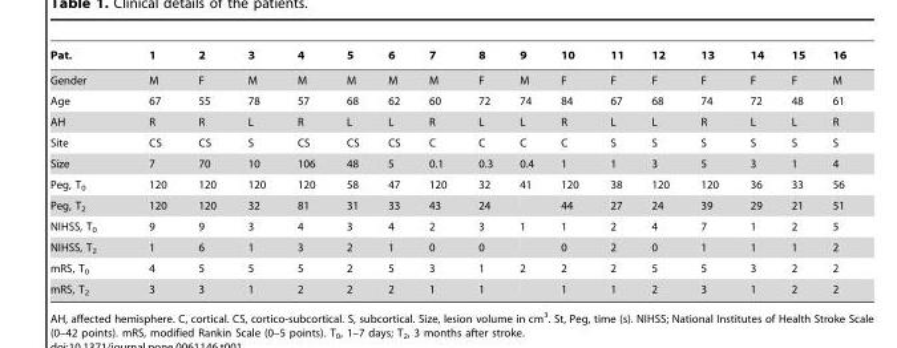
<table><thead><tr><td>Pat.</td><td>1</td><td>2</td><td>3</td><td>4</td><td>5</td><td>6</td><td>7</td><td>8</td><td>9</td><td>10</td><td>11</td><td>12</td><td>13</td><td>14</td><td>15</td><td>16</td></tr></thead><tbody><tr><td>Gender</td><td>M</td><td>F</td><td>M</td><td>M</td><td>M</td><td>M</td><td>M</td><td>F</td><td>M</td><td>F</td><td>F</td><td>F</td><td>F</td><td>F</td><td>F</td><td>M</td></tr><tr><td>Age</td><td>67</td><td>55</td><td>78</td><td>57</td><td>68</td><td>62</td><td>60</td><td>72</td><td>74</td><td>84</td><td>67</td><td>68</td><td>74</td><td>72</td><td>48</td><td>61</td></tr><tr><td>AH</td><td>R</td><td>R</td><td>L</td><td>R</td><td>L</td><td>L</td><td>R</td><td>L</td><td>L</td><td>R</td><td>L</td><td>L</td><td>R</td><td>L</td><td>L</td><td>R</td></tr><tr><td>Site</td><td>CS</td><td>CS</td><td>S</td><td>CS</td><td>CS</td><td>CS</td><td>C</td><td>C</td><td>C</td><td>C</td><td>S</td><td>S</td><td>S</td><td>S</td><td>S</td><td>S</td></tr><tr><td>Size</td><td>7</td><td>70</td><td>10</td><td>106</td><td>48</td><td>5</td><td>0.1</td><td>0.3</td><td>0.4</td><td>1</td><td>1</td><td>3</td><td>5</td><td>3</td><td>1</td><td>4</td></tr><tr><td>Peg, T<sub>0</sub></td><td>120</td><td>120</td><td>120</td><td>120</td><td>58</td><td>47</td><td>120</td><td>32</td><td>41</td><td>120</td><td>38</td><td>120</td><td>120</td><td>36</td><td>33</td><td>56</td></tr><tr><td>Peg, T<sub>2</sub></td><td>120</td><td>120</td><td>32</td><td>81</td><td>31</td><td>33</td><td>43</td><td>24</td><td></td><td>44</td><td>27</td><td>24</td><td>39</td><td>29</td><td>21</td><td>51</td></tr><tr><td>NIHSS, T<sub>0</sub></td><td>9</td><td>9</td><td>3</td><td>4</td><td>3</td><td>4</td><td>2</td><td>3</td><td>1</td><td>1</td><td>2</td><td>4</td><td>7</td><td>1</td><td>2</td><td>5</td></tr><tr><td>NIHSS, T<sub>2</sub></td><td>1</td><td>6</td><td>1</td><td>3</td><td>2</td><td>1</td><td>0</td><td>0</td><td></td><td>0</td><td>2</td><td>0</td><td>1</td><td>1</td><td>1</td><td>2</td></tr><tr><td>mRS, T<sub>0</sub></td><td>4</td><td>5</td><td>5</td><td>5</td><td>2</td><td>5</td><td>3</td><td>1</td><td>2</td><td>2</td><td>2</td><td>5</td><td>5</td><td>3</td><td>2</td><td>2</td></tr><tr><td>mRS, T<sub>2</sub></td><td>3</td><td>3</td><td>1</td><td>2</td><td>2</td><td>2</td><td>1</td><td>1</td><td></td><td>1</td><td>1</td><td>2</td><td>3</td><td>1</td><td>2</td><td>2</td></tr></tbody></table>